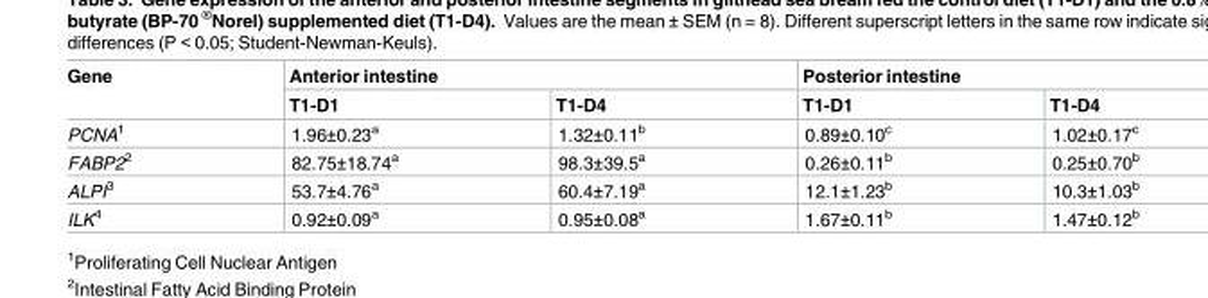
<table><thead><tr><td rowspan="2">Gene</td><td colspan="2">Anterior intestine</td><td colspan="2">Posterior intestine</td></tr><tr><td>T1-D1</td><td>T1-D4</td><td>T1-D1</td><td>T1-D4</td></tr></thead><tbody><tr><td>PCNA<sup>1</sup></td><td>1.96±0.23<sup>a</sup></td><td>1.32±0.11<sup>b</sup></td><td>0.89±0.10<sup>c</sup></td><td>1.02±0.17<sup>c</sup></td></tr><tr><td>FABP2<sup>2</sup></td><td>82.75±18.74<sup>a</sup></td><td>98.3±39.5<sup>a</sup></td><td>0.26±0.11<sup>b</sup></td><td>0.25±0.70<sup>b</sup></td></tr><tr><td>ALPI<sup>3</sup></td><td>53.7±4.76<sup>a</sup></td><td>60.4±7.19<sup>a</sup></td><td>12.1±1.23<sup>b</sup></td><td>10.3±1.03<sup>b</sup></td></tr><tr><td>ILK<sup>4</sup></td><td>0.92±0.09<sup>a</sup></td><td>0.95±0.08<sup>a</sup></td><td>1.67±0.11<sup>b</sup></td><td>1.47±0.12<sup>b</sup></td></tr></tbody></table>